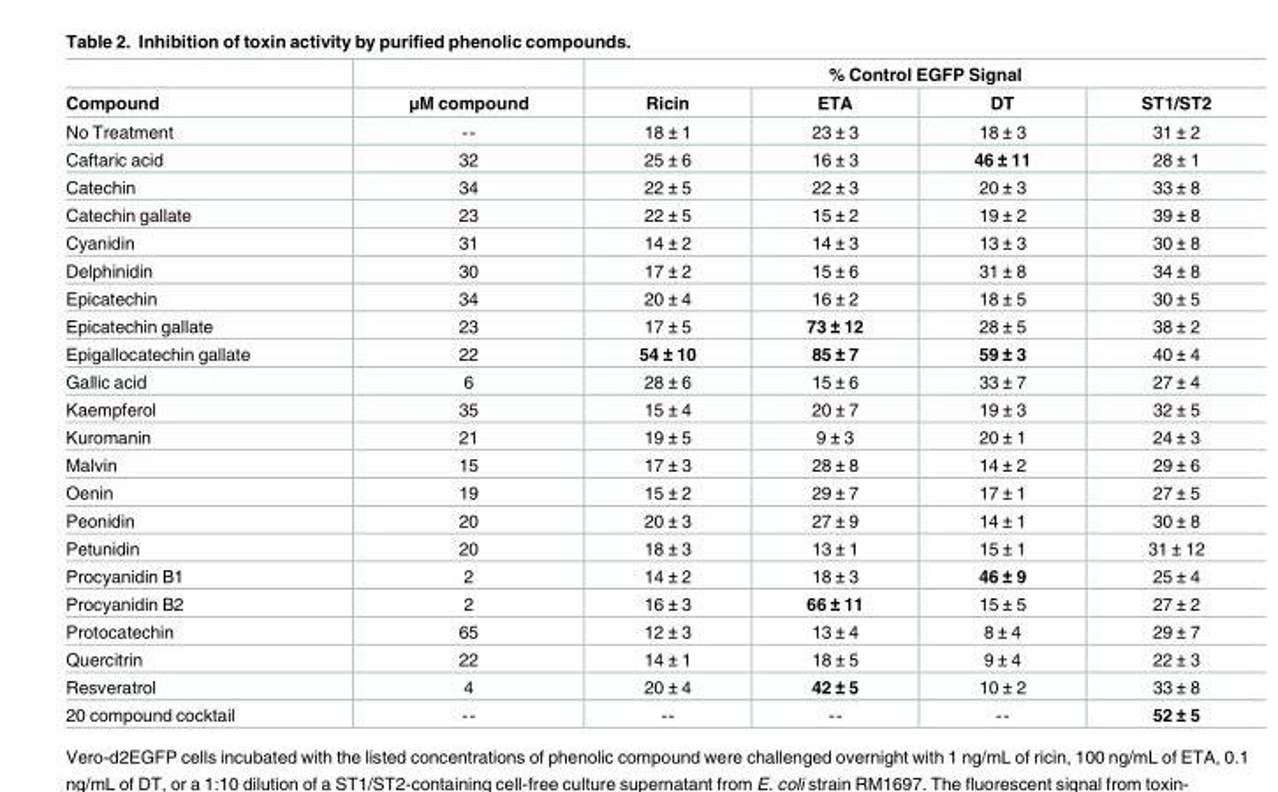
<table><thead><tr><td rowspan="2">Compound</td><td rowspan="2">μM compound</td><td colspan="4">% Control EGFP Signal</td></tr><tr><td>Ricin</td><td>ETA</td><td>DT</td><td>ST1/ST2</td></tr></thead><tbody><tr><td>No Treatment</td><td>--</td><td>18 ± 1</td><td>23 ± 3</td><td>18 ± 3</td><td>31 ± 2</td></tr><tr><td>Caftaric acid</td><td>32</td><td>25 ± 6</td><td>16 ± 3</td><td>46 ± 11</td><td>28 ± 1</td></tr><tr><td>Catechin</td><td>34</td><td>22 ± 5</td><td>22 ± 3</td><td>20 ± 3</td><td>33 ± 8</td></tr><tr><td>Catechin gallate</td><td>23</td><td>22 ± 5</td><td>15 ± 2</td><td>19 ± 2</td><td>39 ± 8</td></tr><tr><td>Cyanidin</td><td>31</td><td>14 ± 2</td><td>14 ± 3</td><td>13 ± 3</td><td>30 ± 8</td></tr><tr><td>Delphinidin</td><td>30</td><td>17 ± 2</td><td>15 ± 6</td><td>31 ± 8</td><td>34 ± 8</td></tr><tr><td>Epicatechin</td><td>34</td><td>20 ± 4</td><td>16 ± 2</td><td>18 ± 5</td><td>30 ± 5</td></tr><tr><td>Epicatechin gallate</td><td>23</td><td>17 ± 5</td><td>73 ± 12</td><td>28 ± 5</td><td>38 ± 2</td></tr><tr><td>Epigallocatechin gallate</td><td>22</td><td>54 ± 10</td><td>85 ± 7</td><td>59 ± 3</td><td>40 ± 4</td></tr><tr><td>Gallic acid</td><td>6</td><td>28 ± 6</td><td>15 ± 6</td><td>33 ± 7</td><td>27 ± 4</td></tr><tr><td>Kaempferol</td><td>35</td><td>15 ± 4</td><td>20 ± 7</td><td>19 ± 3</td><td>32 ± 5</td></tr><tr><td>Kuromanin</td><td>21</td><td>19 ± 5</td><td>9 ± 3</td><td>20 ± 1</td><td>24 ± 3</td></tr><tr><td>Malvin</td><td>15</td><td>17 ± 3</td><td>28 ± 8</td><td>14 ± 2</td><td>29 ± 6</td></tr><tr><td>Oenin</td><td>19</td><td>15 ± 2</td><td>29 ± 7</td><td>17 ± 1</td><td>27 ± 5</td></tr><tr><td>Peonidin</td><td>20</td><td>20 ± 3</td><td>27 ± 9</td><td>14 ± 1</td><td>30 ± 8</td></tr><tr><td>Petunidin</td><td>20</td><td>18 ± 3</td><td>13 ± 1</td><td>15 ± 1</td><td>31 ± 12</td></tr><tr><td>Procyanidin B1</td><td>2</td><td>14 ± 2</td><td>18 ± 3</td><td>46 ± 9</td><td>25 ± 4</td></tr><tr><td>Procyanidin B2</td><td>2</td><td>16 ± 3</td><td>66 ± 11</td><td>15 ± 5</td><td>27 ± 2</td></tr><tr><td>Protocatechin</td><td>65</td><td>12 ± 3</td><td>13 ± 4</td><td>8 ± 4</td><td>29 ± 7</td></tr><tr><td>Quercitrin</td><td>22</td><td>14 ± 1</td><td>18 ± 5</td><td>9 ± 4</td><td>22 ± 3</td></tr><tr><td>Resveratrol</td><td>4</td><td>20 ± 4</td><td>42 ± 5</td><td>10 ± 2</td><td>33 ± 8</td></tr><tr><td>20 compound cocktail</td><td>--</td><td>--</td><td>--</td><td>--</td><td>52 ± 5</td></tr></tbody></table>